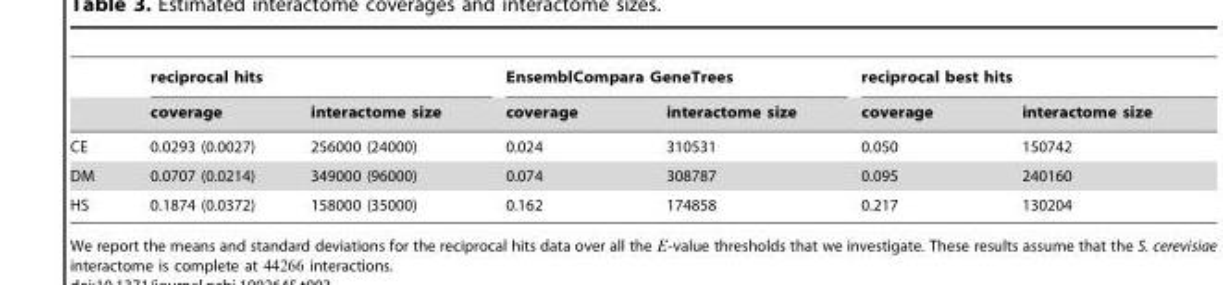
<table><thead><tr><td rowspan="2"></td><td colspan="2">reciprocal hits</td><td colspan="2">EnsemblCompara GeneTrees</td><td colspan="2">reciprocal best hits</td></tr><tr><td>coverage</td><td>interactome size</td><td>coverage</td><td>interactome size</td><td>coverage</td><td>interactome size</td></tr></thead><tbody><tr><td>CE</td><td>0.0293 (0.0027)</td><td>256000 (24000)</td><td>0.024</td><td>310531</td><td>0.050</td><td>150742</td></tr><tr><td>DM</td><td>0.0707 (0.0214)</td><td>349000 (96000)</td><td>0.074</td><td>308787</td><td>0.095</td><td>240160</td></tr><tr><td>HS</td><td>0.1874 (0.0372)</td><td>158000 (35000)</td><td>0.162</td><td>174858</td><td>0.217</td><td>130204</td></tr></tbody></table>